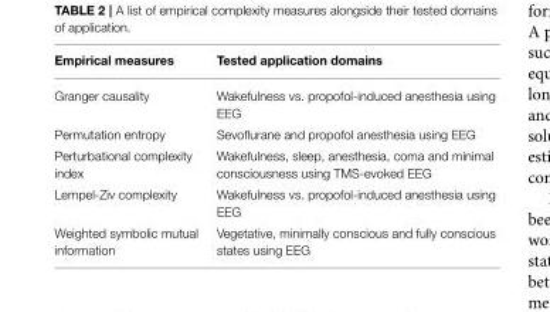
<table><thead><tr><td>Empirical measures</td><td>Tested application domains</td></tr></thead><tbody><tr><td>Granger causality</td><td>Wakefulness vs. propofol-induced anesthesia using EEG</td></tr><tr><td>Permutation entropy</td><td>Sevoflurane and propofol anesthesia using EEG</td></tr><tr><td>Perturbational complexity index</td><td>Wakefulness, sleep, anesthesia, coma and minimal consciousness using TMS-evoked EEG</td></tr><tr><td>Lempel-Ziv complexity</td><td>Wakefulness vs. propofol-induced anesthesia using EEG</td></tr><tr><td>Weighted symbolic mutual information</td><td>Vegetative, minimally conscious and fully conscious states using EEG</td></tr></tbody></table>